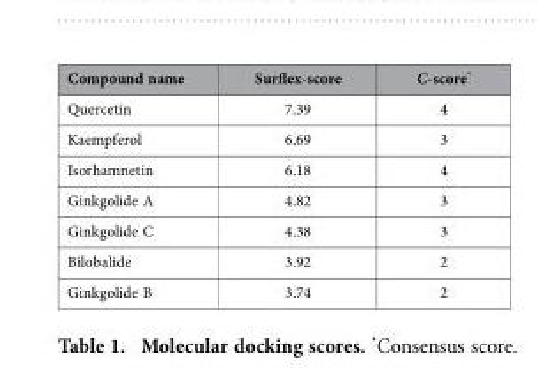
<table><thead><tr><td>Compound name</td><td>Surflex-score</td><td>C-score*</td></tr></thead><tbody><tr><td>Quercetin</td><td>7.39</td><td>4</td></tr><tr><td>Kaempferol</td><td>6.69</td><td>3</td></tr><tr><td>Isorhamnetin</td><td>6.18</td><td>4</td></tr><tr><td>Ginkgolide A</td><td>4.82</td><td>3</td></tr><tr><td>Ginkgolide C</td><td>4.38</td><td>3</td></tr><tr><td>Bilobalide</td><td>3.92</td><td>2</td></tr><tr><td>Ginkgolide B</td><td>3.74</td><td>2</td></tr></tbody></table>